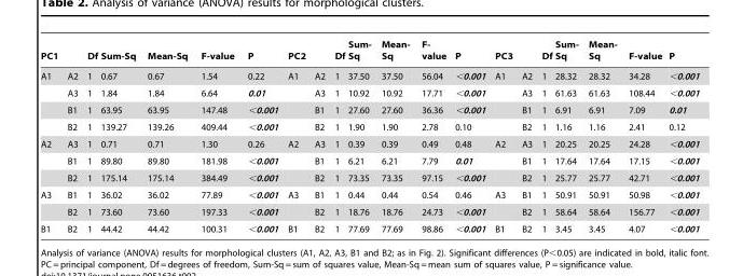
<table><thead><tr><td>PC1</td><td></td><td>Df</td><td>Sum-Sq</td><td>Mean-Sq</td><td>F-value</td><td>P</td><td>PC2</td><td></td><td>Df</td><td>Sum- Sq</td><td>Mean- Sq</td><td>F- value</td><td>P</td><td>PC3</td><td></td><td>Df</td><td>Sum- Sq</td><td>Mean- Sq</td><td>F-value</td><td>P</td></tr></thead><tbody><tr><td rowspan="4">A1</td><td>A2</td><td>1</td><td>0.67</td><td>0.67</td><td>1.54</td><td>0.22</td><td>A1</td><td>A2</td><td>1</td><td>37.50</td><td>37.50</td><td>56.04</td><td>&lt;0.001</td><td>A1</td><td>A2</td><td>1</td><td>28.32</td><td>28.32</td><td>34.28</td><td>&lt;0.001</td></tr><tr><td>A3</td><td>1</td><td>1.84</td><td>1.84</td><td>6.64</td><td>0.01</td><td></td><td>A3</td><td>1</td><td>10.92</td><td>10.92</td><td>17.71</td><td>&lt;0.001</td><td></td><td>A3</td><td>1</td><td>61.63</td><td>61.63</td><td>108.44</td><td>&lt;0.001</td></tr><tr><td>B1</td><td>1</td><td>63.95</td><td>63.95</td><td>147.48</td><td>&lt;0.001</td><td></td><td>B1</td><td>1</td><td>27.60</td><td>27.60</td><td>36.36</td><td>&lt;0.001</td><td></td><td>B1</td><td>1</td><td>6.91</td><td>6.91</td><td>7.09</td><td>0.01</td></tr><tr><td>B2</td><td>1</td><td>139.27</td><td>139.26</td><td>409.44</td><td>&lt;0.001</td><td></td><td>B2</td><td>1</td><td>1.90</td><td>1.90</td><td>2.78</td><td>0.10</td><td></td><td>B2</td><td>1</td><td>1.16</td><td>1.16</td><td>2.41</td><td>0.12</td></tr><tr><td rowspan="3">A2</td><td>A3</td><td>1</td><td>0.71</td><td>0.71</td><td>1.30</td><td>0.26</td><td>A2</td><td>A3</td><td>1</td><td>0.39</td><td>0.39</td><td>0.49</td><td>0.48</td><td>A2</td><td>A3</td><td>1</td><td>20.25</td><td>20.25</td><td>24.28</td><td>&lt;0.001</td></tr><tr><td>B1</td><td>1</td><td>89.80</td><td>89.80</td><td>181.98</td><td>&lt;0.001</td><td></td><td>B1</td><td>1</td><td>6.21</td><td>6.21</td><td>7.79</td><td>0.01</td><td></td><td>B1</td><td>1</td><td>17.64</td><td>17.64</td><td>17.15</td><td>&lt;0.001</td></tr><tr><td>B2</td><td>1</td><td>175.14</td><td>175.14</td><td>384.49</td><td>&lt;0.001</td><td></td><td>B2</td><td>1</td><td>73.35</td><td>73.35</td><td>97.15</td><td>&lt;0.001</td><td></td><td>B2</td><td>1</td><td>25.77</td><td>25.77</td><td>42.71</td><td>&lt;0.001</td></tr><tr><td rowspan="2">A3</td><td>B1</td><td>1</td><td>36.02</td><td>36.02</td><td>77.89</td><td>&lt;0.001</td><td>A3</td><td>B1</td><td>1</td><td>0.44</td><td>0.44</td><td>0.54</td><td>0.46</td><td>A3</td><td>B1</td><td>1</td><td>50.91</td><td>50.91</td><td>50.98</td><td>&lt;0.001</td></tr><tr><td>B2</td><td>1</td><td>73.60</td><td>73.60</td><td>197.33</td><td>&lt;0.001</td><td></td><td>B2</td><td>1</td><td>18.76</td><td>18.76</td><td>24.73</td><td>&lt;0.001</td><td></td><td>B2</td><td>1</td><td>58.64</td><td>58.64</td><td>156.77</td><td>&lt;0.001</td></tr><tr><td>B1</td><td>B2</td><td>1</td><td>44.42</td><td>44.42</td><td>100.31</td><td>&lt;0.001</td><td>B1</td><td>B2</td><td>1</td><td>77.69</td><td>77.69</td><td>98.86</td><td>&lt;0.001</td><td>B1</td><td>B2</td><td>1</td><td>3.45</td><td>3.45</td><td>4.07</td><td>&lt;0.001</td></tr></tbody></table>